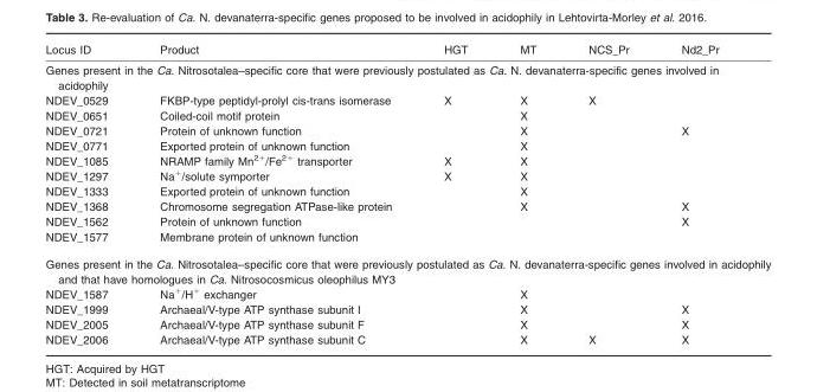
<table><thead><tr><td>Locus ID</td><td>Product</td><td>HGT</td><td>MT</td><td>NCS_Pr</td><td>Nd2_Pr</td></tr></thead><tbody><tr><td colspan="6">Genes present in the Ca. Nitrosotalea–specific core that were previously postulated as Ca. N. devanaterra-specific genes involved in acidophily</td></tr><tr><td>NDEV_0529</td><td>FKBP-type peptidyl-prolyl cis-trans isomerase</td><td>X</td><td>X</td><td>X</td><td></td></tr><tr><td>NDEV_0651</td><td>Coiled-coil motif protein</td><td></td><td>X</td><td></td><td></td></tr><tr><td>NDEV_0721</td><td>Protein of unknown function</td><td></td><td>X</td><td></td><td>X</td></tr><tr><td>NDEV_0771</td><td>Exported protein of unknown function</td><td></td><td>X</td><td></td><td></td></tr><tr><td>NDEV_1085</td><td>NRAMP family Mn<sup>2+</sup>/Fe<sup>2+</sup> transporter</td><td>X</td><td>X</td><td></td><td></td></tr><tr><td>NDEV_1297</td><td>Na<sup>+</sup>/solute symporter</td><td>X</td><td>X</td><td></td><td></td></tr><tr><td>NDEV_1333</td><td>Exported protein of unknown function</td><td></td><td>X</td><td></td><td></td></tr><tr><td>NDEV_1368</td><td>Chromosome segregation ATPase-like protein</td><td></td><td>X</td><td></td><td>X</td></tr><tr><td>NDEV_1562</td><td>Protein of unknown function</td><td></td><td></td><td></td><td>X</td></tr><tr><td>NDEV_1577</td><td>Membrane protein of unknown function</td><td></td><td></td><td></td><td></td></tr><tr><td colspan="6">Genes present in the Ca. Nitrosotalea–specific core that were previously postulated as Ca. N. devanaterra-specific genes involved in acidophily and that have homologues in Ca. Nitrosocosmicus oleophilus MY3</td></tr><tr><td>NDEV_1587</td><td>Na<sup>+</sup>/H<sup>+</sup> exchanger</td><td></td><td>X</td><td></td><td></td></tr><tr><td>NDEV_1999</td><td>Archaeal/V-type ATP synthase subunit I</td><td></td><td>X</td><td></td><td>X</td></tr><tr><td>NDEV_2005</td><td>Archaeal/V-type ATP synthase subunit F</td><td></td><td>X</td><td></td><td>X</td></tr><tr><td>NDEV_2006</td><td>Archaeal/V-type ATP synthase subunit C</td><td></td><td>X</td><td>X</td><td>X</td></tr></tbody></table>